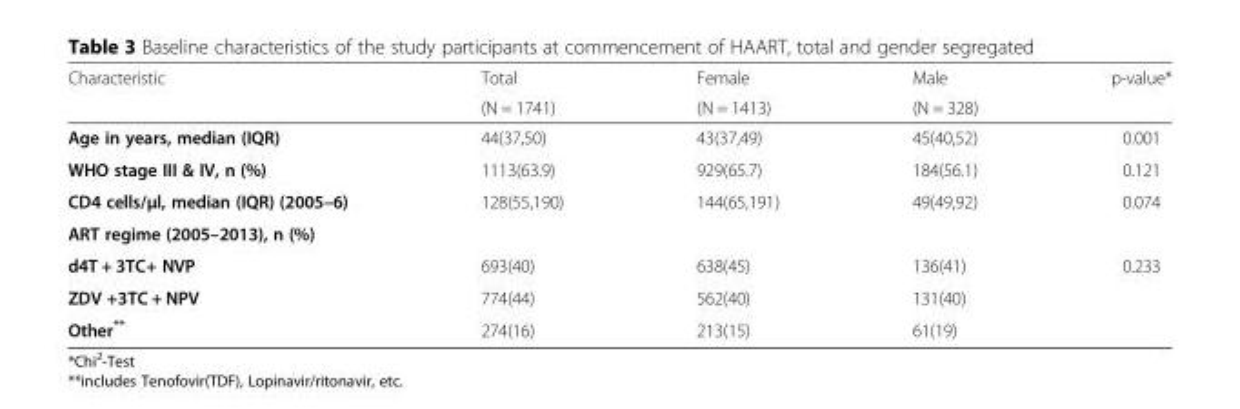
<table><thead><tr><td rowspan="2">Characteristic</td><td rowspan="2">Total (N = 1741)</td><td rowspan="2">Female (N = 1413)</td><td rowspan="2">Male (N = 328)</td><td rowspan="2">p-value*</td></tr><tr></tr></thead><tbody><tr><td>Age in years, median (IQR)</td><td>44(37,50)</td><td>43(37,49)</td><td>45(40,52)</td><td>0.001</td></tr><tr><td>WHO stage III &amp; IV, n (%)</td><td>1113(63.9)</td><td>929(65.7)</td><td>184(56.1)</td><td>0.121</td></tr><tr><td>CD4 cells/μl, median (IQR) (2005–6)</td><td>128(55,190)</td><td>144(65,191)</td><td>49(49,92)</td><td>0.074</td></tr><tr><td colspan="5">ART regime (2005–2013), n (%)</td></tr><tr><td>d4T + 3TC+ NVP</td><td>693(40)</td><td>638(45)</td><td>136(41)</td><td rowspan="3">0.233</td></tr><tr><td>ZDV +3TC + NPV</td><td>774(44)</td><td>562(40)</td><td>131(40)</td></tr><tr><td>Other**</td><td>274(16)</td><td>213(15)</td><td>61(19)</td></tr></tbody></table>